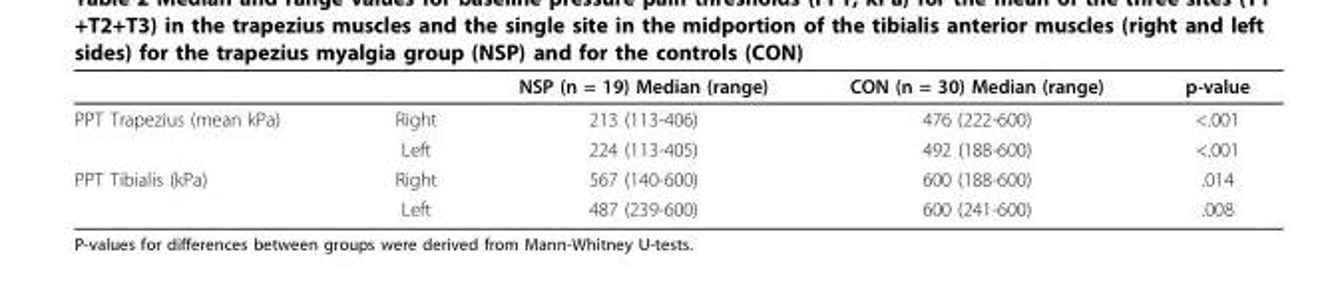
<table><thead><tr><td></td><td></td><td>NSP (n = 19) Median (range)</td><td>CON (n = 30) Median (range)</td><td>p-value</td></tr></thead><tbody><tr><td rowspan="2">PPT Trapezius (mean kPa)</td><td>Right</td><td>213 (113-406)</td><td>476 (222-600)</td><td>&lt;.001</td></tr><tr><td>Left</td><td>224 (113-405)</td><td>492 (188-600)</td><td>&lt;.001</td></tr><tr><td rowspan="2">PPT Tibialis (kPa)</td><td>Right</td><td>567 (140-600)</td><td>600 (188-600)</td><td>.014</td></tr><tr><td>Left</td><td>487 (239-600)</td><td>600 (241-600)</td><td>.008</td></tr></tbody></table>